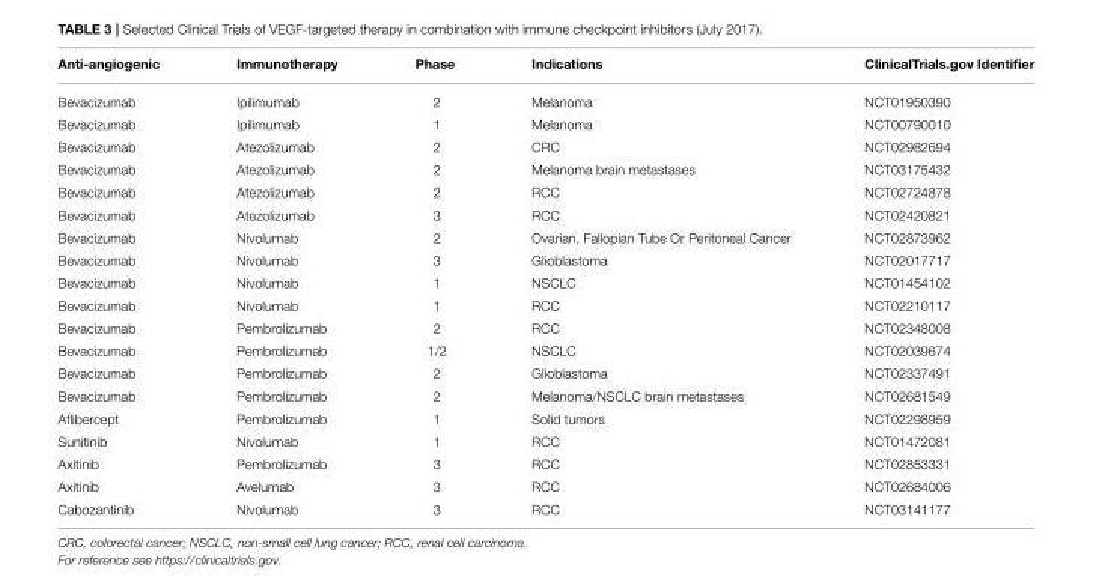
<table><thead><tr><td>Anti-angiogenic</td><td>Immunotherapy</td><td>Phase</td><td>Indications</td><td>ClinicalTrials.gov Identifier</td></tr></thead><tbody><tr><td>Bevacizumab</td><td>Ipilimumab</td><td>2</td><td>Melanoma</td><td>NCT01950390</td></tr><tr><td>Bevacizumab</td><td>Ipilimumab</td><td>1</td><td>Melanoma</td><td>NCT00790010</td></tr><tr><td>Bevacizumab</td><td>Atezolizumab</td><td>2</td><td>CRC</td><td>NCT02982694</td></tr><tr><td>Bevacizumab</td><td>Atezolizumab</td><td>2</td><td>Melanoma brain metastases</td><td>NCT03175432</td></tr><tr><td>Bevacizumab</td><td>Atezolizumab</td><td>2</td><td>RCC</td><td>NCT02724878</td></tr><tr><td>Bevacizumab</td><td>Atezolizumab</td><td>3</td><td>RCC</td><td>NCT02420821</td></tr><tr><td>Bevacizumab</td><td>Nivolumab</td><td>2</td><td>Ovarian, Fallopian Tube Or Peritoneal Cancer</td><td>NCT02873962</td></tr><tr><td>Bevacizumab</td><td>Nivolumab</td><td>3</td><td>Glioblastoma</td><td>NCT02017717</td></tr><tr><td>Bevacizumab</td><td>Nivolumab</td><td>1</td><td>NSCLC</td><td>NCT01454102</td></tr><tr><td>Bevacizumab</td><td>Nivolumab</td><td>1</td><td>RCC</td><td>NCT02210117</td></tr><tr><td>Bevacizumab</td><td>Pembrolizumab</td><td>2</td><td>RCC</td><td>NCT02348008</td></tr><tr><td>Bevacizumab</td><td>Pembrolizumab</td><td>1/2</td><td>NSCLC</td><td>NCT02039674</td></tr><tr><td>Bevacizumab</td><td>Pembrolizumab</td><td>2</td><td>Glioblastoma</td><td>NCT02337491</td></tr><tr><td>Bevacizumab</td><td>Pembrolizumab</td><td>2</td><td>Melanoma/NSCLC brain metastases</td><td>NCT02681549</td></tr><tr><td>Aflibercept</td><td>Pembrolizumab</td><td>1</td><td>Solid tumors</td><td>NCT02298959</td></tr><tr><td>Sunitinib</td><td>Nivolumab</td><td>1</td><td>RCC</td><td>NCT01472081</td></tr><tr><td>Axitinib</td><td>Pembrolizumab</td><td>3</td><td>RCC</td><td>NCT02853331</td></tr><tr><td>Axitinib</td><td>Avelumab</td><td>3</td><td>RCC</td><td>NCT02684006</td></tr><tr><td>Cabozantinib</td><td>Nivolumab</td><td>3</td><td>RCC</td><td>NCT03141177</td></tr></tbody></table>